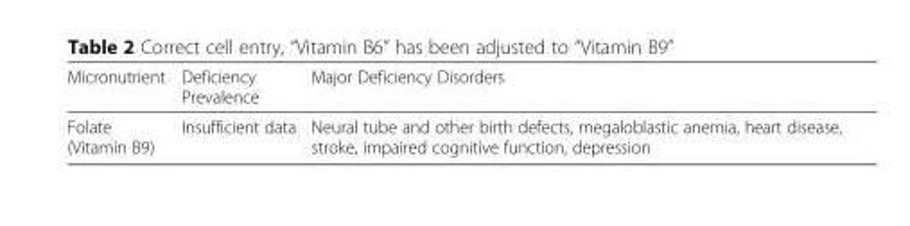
<table><thead><tr><td>Micronutrient</td><td>Deficiency Prevalence</td><td>Major Deficiency Disorders</td></tr></thead><tbody><tr><td>Folate (Vitamin B9)</td><td>Insufficient data</td><td>Neural tube and other birth defects, megaloblastic anemia, heart disease, stroke, impaired cognitive function, depression</td></tr></tbody></table>